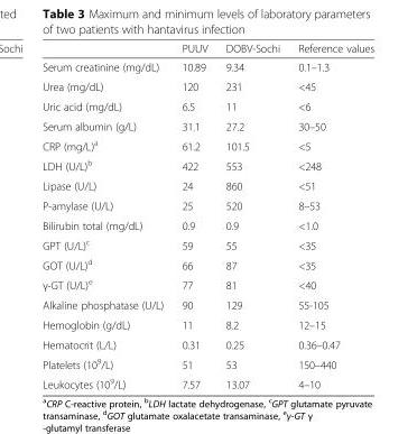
<table><thead><tr><td></td><td>PUUV</td><td>DOBV-Sochi</td><td>Reference values</td></tr></thead><tbody><tr><td>Serum creatinine (mg/dL)</td><td>10.89</td><td>9.34</td><td>0.1–1.3</td></tr><tr><td>Urea (mg/dL)</td><td>120</td><td>231</td><td>&lt;45</td></tr><tr><td>Uric acid (mg/dL)</td><td>6.5</td><td>11</td><td>&lt;6</td></tr><tr><td>Serum albumin (g/L)</td><td>31.1</td><td>27.2</td><td>30–50</td></tr><tr><td>CRP (mg/L)<sup>a</sup></td><td>61.2</td><td>101.5</td><td>&lt;5</td></tr><tr><td>LDH (U/L)<sup>b</sup></td><td>422</td><td>553</td><td>&lt;248</td></tr><tr><td>Lipase (U/L)</td><td>24</td><td>860</td><td>&lt;51</td></tr><tr><td>P-amylase (U/L)</td><td>25</td><td>520</td><td>8–53</td></tr><tr><td>Bilirubin total (mg/dL)</td><td>0.9</td><td>0.9</td><td>&lt;1.0</td></tr><tr><td>GPT (U/L)<sup>c</sup></td><td>59</td><td>55</td><td>&lt;35</td></tr><tr><td>GOT (U/L)<sup>d</sup></td><td>66</td><td>87</td><td>&lt;35</td></tr><tr><td>γ-GT (U/L)<sup>e</sup></td><td>77</td><td>81</td><td>&lt;40</td></tr><tr><td>Alkaline phosphatase (U/L)</td><td>90</td><td>129</td><td>55-105</td></tr><tr><td>Hemoglobin (g/dL)</td><td>11</td><td>8.2</td><td>12–15</td></tr><tr><td>Hematocrit (L/L)</td><td>0.31</td><td>0.25</td><td>0.36–0.47</td></tr><tr><td>Platelets (10<sup>9</sup>/L)</td><td>51</td><td>53</td><td>150–440</td></tr><tr><td>Leukocytes (10<sup>9</sup>/L)</td><td>7.57</td><td>13.07</td><td>4–10</td></tr></tbody></table>